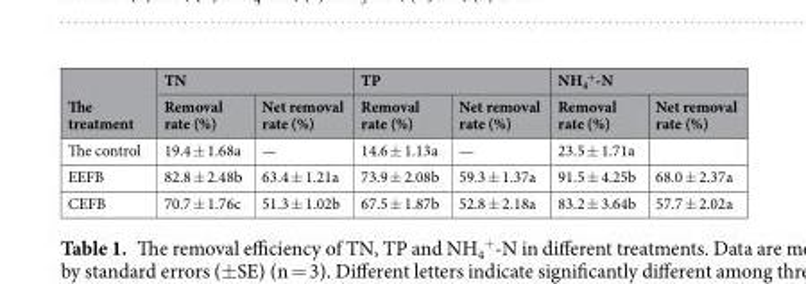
<table><thead><tr><td rowspan="2">The treatment</td><td colspan="2">TN</td><td colspan="2">TP</td><td colspan="2">NH<sub>4</sub> <sup>+</sup>-N</td></tr><tr><td>Removal rate (%)</td><td>Net removal rate (%)</td><td>Removal rate (%)</td><td>Net removal rate (%)</td><td>Removal rate (%)</td><td>Net removal rate (%)</td></tr></thead><tbody><tr><td>The control</td><td>19.4 ± 1.68a</td><td>—</td><td>14.6 ± 1.13a</td><td>—</td><td>23.5 ± 1.71a</td><td></td></tr><tr><td>EEFB</td><td>82.8 ± 2.48b</td><td>63.4 ± 1.21a</td><td>73.9 ± 2.08b</td><td>59.3 ± 1.37a</td><td>91.5 ± 4.25b</td><td>68.0 ± 2.37a</td></tr><tr><td>CEFB</td><td>70.7 ± 1.76c</td><td>51.3 ± 1.02b</td><td>67.5 ± 1.87b</td><td>52.8 ± 2.18a</td><td>83.2 ± 3.64b</td><td>57.7 ± 2.02a</td></tr></tbody></table>